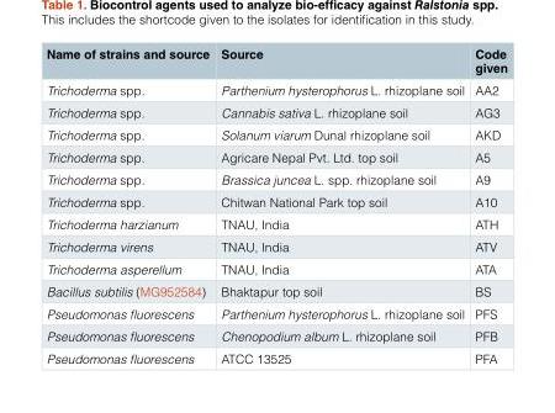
<table><thead><tr><td>Name of strains and source</td><td>Source</td><td>Code given</td></tr></thead><tbody><tr><td>Trichoderma spp.</td><td>Parthenium hysterophorus L. rhizoplane soil</td><td>AA2</td></tr><tr><td>Trichoderma spp.</td><td>Cannabis sativa L. rhizoplane soil</td><td>AG3</td></tr><tr><td>Trichoderma spp.</td><td>Solanum viarum Dunal rhizoplane soil</td><td>AKD</td></tr><tr><td>Trichoderma spp.</td><td>Agricare Nepal Pvt. Ltd. top soil</td><td>A5</td></tr><tr><td>Trichoderma spp.</td><td>Brassica juncea L. spp. rhizoplane soil</td><td>A9</td></tr><tr><td>Trichoderma spp.</td><td>Chitwan National Park top soil</td><td>A10</td></tr><tr><td>Trichoderma harzianum</td><td>TNAU, India</td><td>ATH</td></tr><tr><td>Trichoderma virens</td><td>TNAU, India</td><td>ATV</td></tr><tr><td>Trichoderma asperellum</td><td>TNAU, India</td><td>ATA</td></tr><tr><td>Bacillus subtilis (MG952584)</td><td>Bhaktapur top soil</td><td>BS</td></tr><tr><td>Pseudomonas fluorescens</td><td>Parthenium hysterophorus L. rhizoplane soil</td><td>PFS</td></tr><tr><td>Pseudomonas fluorescens</td><td>Chenopodium album L. rhizoplane soil</td><td>PFB</td></tr><tr><td>Pseudomonas fluorescens</td><td>ATCC 13525</td><td>PFA</td></tr></tbody></table>